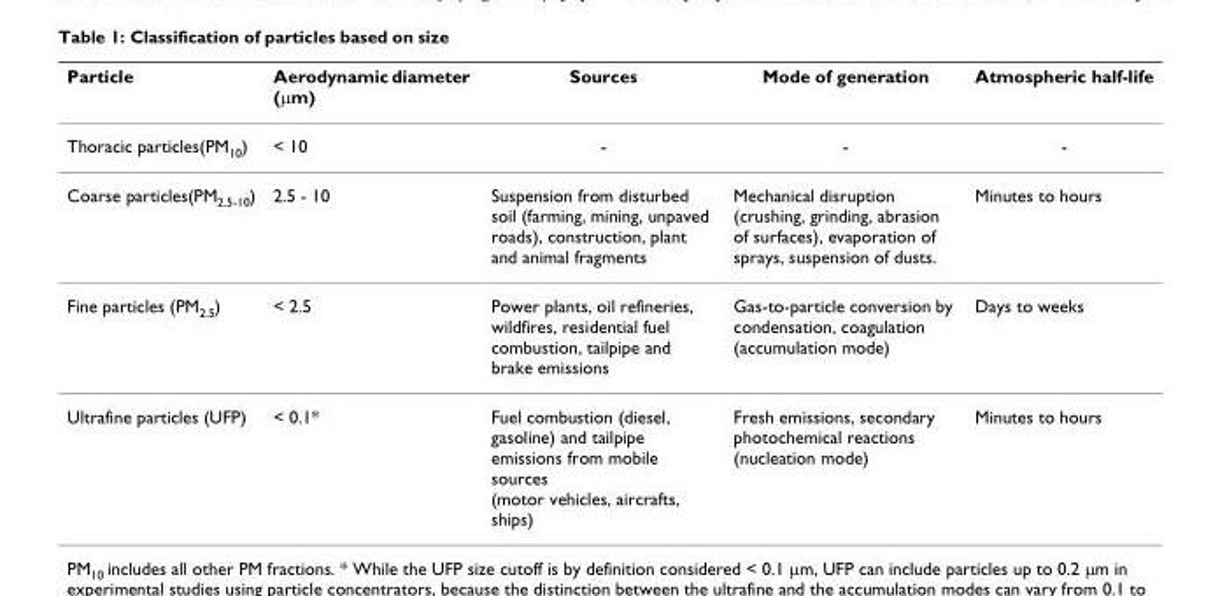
<table><thead><tr><td>Particle</td><td>Aerodynamic diameter (μm)</td><td>Sources</td><td>Mode of generation</td><td>Atmospheric half-life</td></tr></thead><tbody><tr><td>Thoracic particles(PM<sub>10</sub>)</td><td>&lt; 10</td><td>-</td><td>-</td><td>-</td></tr><tr><td>Coarse particles(PM<sub>2.5-10</sub>)</td><td>2.5 - 10</td><td>Suspension from disturbed soil (farming, mining, unpaved roads), construction, plant and animal fragments</td><td>Mechanical disruption (crushing, grinding, abrasion of surfaces), evaporation of sprays, suspension of dusts.</td><td>Minutes to hours</td></tr><tr><td>Fine particles (PM<sub>2.5</sub>)</td><td>&lt; 2.5</td><td>Power plants, oil refineries, wildfires, residential fuel combustion, tailpipe and brake emissions</td><td>Gas-to-particle conversion by condensation, coagulation (accumulation mode)</td><td>Days to weeks</td></tr><tr><td>Ultrafine particles (UFP)</td><td>&lt; 0.1*</td><td>Fuel combustion (diesel, gasoline) and tailpipe emissions from mobile sources (motor vehicles, aircrafts, ships)</td><td>Fresh emissions, secondary photochemical reactions (nucleation mode)</td><td>Minutes to hours</td></tr></tbody></table>